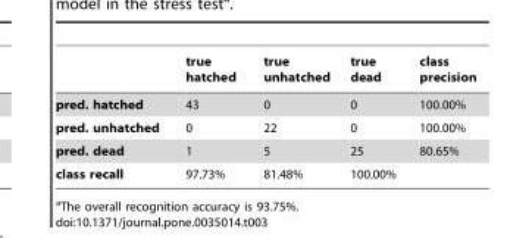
<table><thead><tr><td></td><td>true hatched</td><td>true unhatched</td><td>true dead</td><td>class precision</td></tr></thead><tbody><tr><td>pred. hatched</td><td>43</td><td>0</td><td>0</td><td>100.00%</td></tr><tr><td>pred. unhatched</td><td>0</td><td>22</td><td>0</td><td>100.00%</td></tr><tr><td>pred. dead</td><td>1</td><td>5</td><td>25</td><td>80.65%</td></tr><tr><td>class recall</td><td>97.73%</td><td>81.48%</td><td>100.00%</td><td></td></tr></tbody></table>